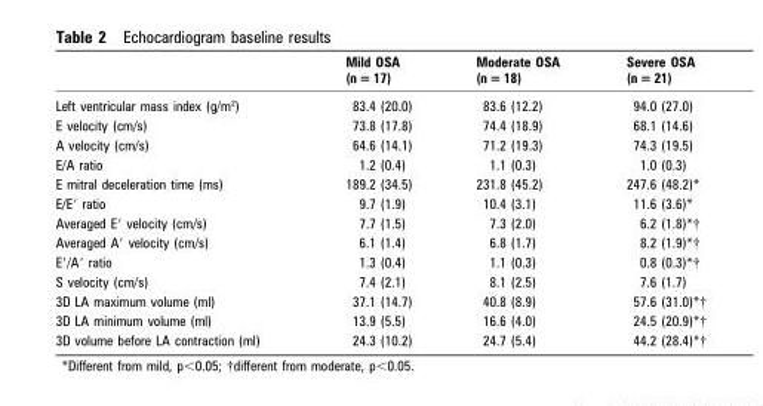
<table><thead><tr><td></td><td>Mild OSA (n = 17)</td><td>Moderate OSA (n = 18)</td><td>Severe OSA (n = 21)</td></tr></thead><tbody><tr><td>Left ventricular mass index (g/m<sup>2</sup>)</td><td>83.4 (20.0)</td><td>83.6 (12.2)</td><td>94.0 (27.0)</td></tr><tr><td>E velocity (cm/s)</td><td>73.8 (17.8)</td><td>74.4 (18.9)</td><td>68.1 (14.6)</td></tr><tr><td>A velocity (cm/s)</td><td>64.6 (14.1)</td><td>71.2 (19.3)</td><td>74.3 (19.5)</td></tr><tr><td>E/A ratio</td><td>1.2 (0.4)</td><td>1.1 (0.3)</td><td>1.0 (0.3)</td></tr><tr><td>E mitral deceleration time (ms)</td><td>189.2 (34.5)</td><td>231.8 (45.2)</td><td>247.6 (48.2)*</td></tr><tr><td>E/E′ ratio</td><td>9.7 (1.9)</td><td>10.4 (3.1)</td><td>11.6 (3.6)*</td></tr><tr><td>Averaged E′ velocity (cm/s)</td><td>7.7 (1.5)</td><td>7.3 (2.0)</td><td>6.2 (1.8)*†</td></tr><tr><td>Averaged A′ velocity (cm/s)</td><td>6.1 (1.4)</td><td>6.8 (1.7)</td><td>8.2 (1.9)*†</td></tr><tr><td>E′/A′ ratio</td><td>1.3 (0.4)</td><td>1.1 (0.3)</td><td>0.8 (0.3)*†</td></tr><tr><td>S velocity (cm/s)</td><td>7.4 (2.1)</td><td>8.1 (2.5)</td><td>7.6 (1.7)</td></tr><tr><td>3D LA maximum volume (ml)</td><td>37.1 (14.7)</td><td>40.8 (8.9)</td><td>57.6 (31.0)*†</td></tr><tr><td>3D LA minimum volume (ml)</td><td>13.9 (5.5)</td><td>16.6 (4.0)</td><td>24.5 (20.9)*†</td></tr><tr><td>3D volume before LA contraction (ml)</td><td>24.3 (10.2)</td><td>24.7 (5.4)</td><td>44.2 (28.4)*†</td></tr></tbody></table>